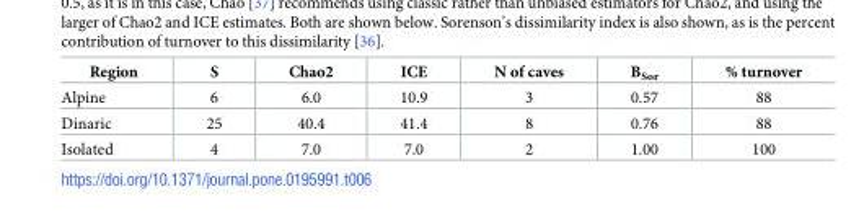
<table><thead><tr><td>Region</td><td>S</td><td>Chao2</td><td>ICE</td><td>N of caves</td><td>Β<sub>Sor</sub></td><td>% turnover</td></tr></thead><tbody><tr><td>Alpine</td><td>6</td><td>6.0</td><td>10.9</td><td>3</td><td>0.57</td><td>88</td></tr><tr><td>Dinaric</td><td>25</td><td>40.4</td><td>41.4</td><td>8</td><td>0.76</td><td>88</td></tr><tr><td>Isolated</td><td>4</td><td>7.0</td><td>7.0</td><td>2</td><td>1.00</td><td>100</td></tr></tbody></table>